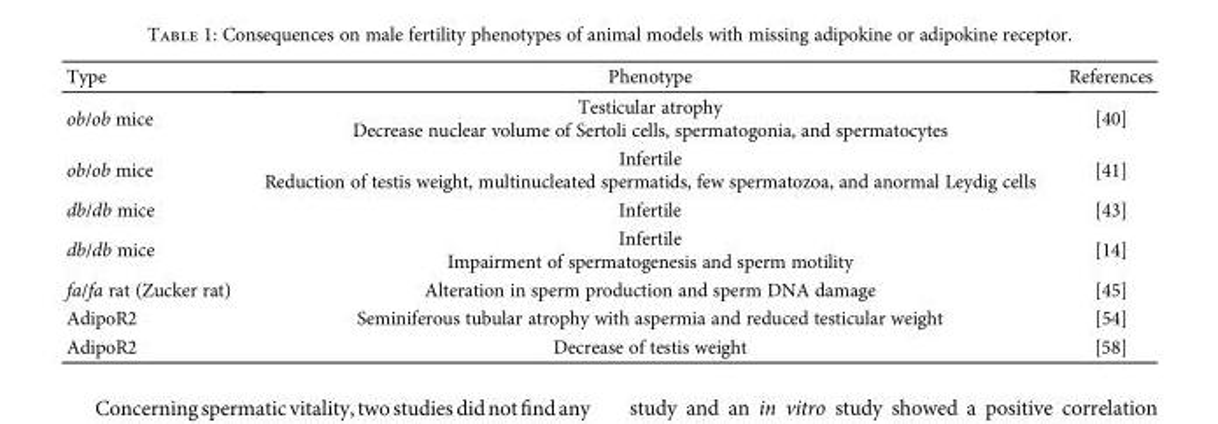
<table><thead><tr><td>Type</td><td>Phenotype</td><td>References</td></tr></thead><tbody><tr><td>ob/ob mice</td><td>Testicular atrophy Decrease nuclear volume of Sertoli cells, spermatogonia, and spermatocytes</td><td>[40]</td></tr><tr><td>ob/ob mice</td><td>Infertile Reduction of testis weight, multinucleated spermatids, few spermatozoa, and anormal Leydig cells</td><td>[41]</td></tr><tr><td>db/db mice</td><td>Infertile</td><td>[43]</td></tr><tr><td>db/db mice</td><td>Infertile Impairment of spermatogenesis and sperm motility</td><td>[14]</td></tr><tr><td>fa/fa rat (Zucker rat)</td><td>Alteration in sperm production and sperm DNA damage</td><td>[45]</td></tr><tr><td>AdipoR2</td><td>Seminiferous tubular atrophy with aspermia and reduced testicular weight</td><td>[54]</td></tr><tr><td>AdipoR2</td><td>Decrease of testis weight</td><td>[58]</td></tr></tbody></table>